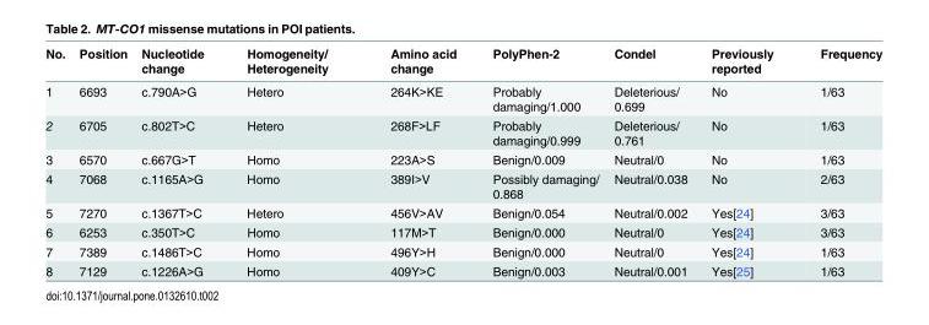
<table><thead><tr><td>No.</td><td>Position</td><td>Nucleotide change</td><td>Homogeneity/ Heterogeneity</td><td>Amino acid change</td><td>PolyPhen-2</td><td>Condel</td><td>Previously reported</td><td>Frequency</td></tr></thead><tbody><tr><td>1</td><td>6693</td><td>c.790A&gt;G</td><td>Hetero</td><td>264K&gt;KE</td><td>Probably damaging/1.000</td><td>Deleterious/ 0.699</td><td>No</td><td>1/63</td></tr><tr><td>2</td><td>6705</td><td>c.802T&gt;C</td><td>Hetero</td><td>268F&gt;LF</td><td>Probably damaging/0.999</td><td>Deleterious/ 0.761</td><td>No</td><td>1/63</td></tr><tr><td>3</td><td>6570</td><td>c.667G&gt;T</td><td>Homo</td><td>223A&gt;S</td><td>Benign/0.009</td><td>Neutral/0</td><td>No</td><td>1/63</td></tr><tr><td>4</td><td>7068</td><td>c.1165A&gt;G</td><td>Homo</td><td>389I&gt;V</td><td>Possibly damaging/ 0.868</td><td>Neutral/0.038</td><td>No</td><td>2/63</td></tr><tr><td>5</td><td>7270</td><td>c.1367T&gt;C</td><td>Hetero</td><td>456V&gt;AV</td><td>Benign/0.054</td><td>Neutral/0.002</td><td>Yes[24]</td><td>3/63</td></tr><tr><td>6</td><td>6253</td><td>c.350T&gt;C</td><td>Homo</td><td>117M&gt;T</td><td>Benign/0.000</td><td>Neutral/0</td><td>Yes[24]</td><td>3/63</td></tr><tr><td>7</td><td>7389</td><td>c.1486T&gt;C</td><td>Homo</td><td>496Y&gt;H</td><td>Benign/0.000</td><td>Neutral/0</td><td>Yes[24]</td><td>1/63</td></tr><tr><td>8</td><td>7129</td><td>c.1226A&gt;G</td><td>Homo</td><td>409Y&gt;C</td><td>Benign/0.003</td><td>Neutral/0.001</td><td>Yes[25]</td><td>1/63</td></tr></tbody></table>